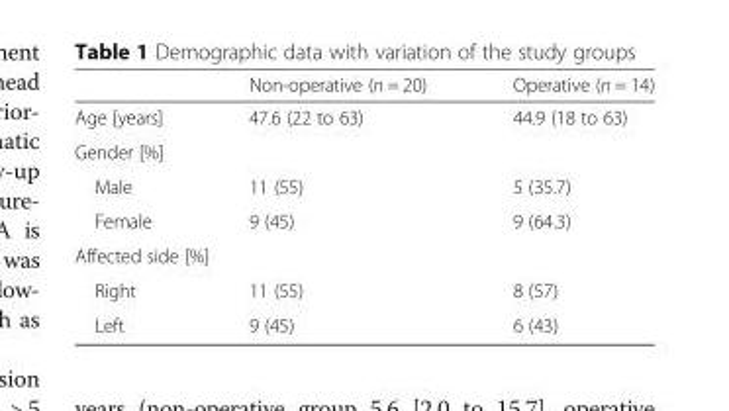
<table><thead><tr><td></td><td>Non-operative (n = 20)</td><td>Operative (n = 14)</td></tr></thead><tbody><tr><td>Age [years]</td><td>47.6 (22 to 63)</td><td>44.9 (18 to 63)</td></tr><tr><td colspan="3">Gender [%]</td></tr><tr><td>Male</td><td>11 (55)</td><td>5 (35.7)</td></tr><tr><td>Female</td><td>9 (45)</td><td>9 (64.3)</td></tr><tr><td colspan="3">Affected side [%]</td></tr><tr><td>Right</td><td>11 (55)</td><td>8 (57)</td></tr><tr><td>Left</td><td>9 (45)</td><td>6 (43)</td></tr></tbody></table>